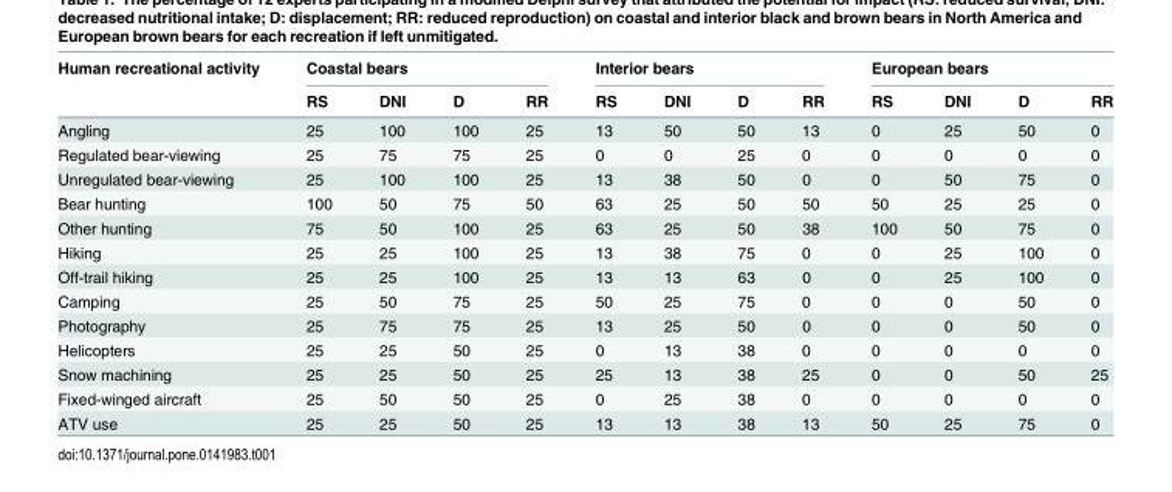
<table><thead><tr><td rowspan="2">Human recreational activity</td><td colspan="4">Coastal bears</td><td colspan="4">Interior bears</td><td colspan="4">European bears</td></tr><tr><td>RS</td><td>DNI</td><td>D</td><td>RR</td><td>RS</td><td>DNI</td><td>D</td><td>RR</td><td>RS</td><td>DNI</td><td>D</td><td>RR</td></tr></thead><tbody><tr><td>Angling</td><td>25</td><td>100</td><td>100</td><td>25</td><td>13</td><td>50</td><td>50</td><td>13</td><td>0</td><td>25</td><td>50</td><td>0</td></tr><tr><td>Regulated bear-viewing</td><td>25</td><td>75</td><td>75</td><td>25</td><td>0</td><td>0</td><td>25</td><td>0</td><td>0</td><td>0</td><td>0</td><td>0</td></tr><tr><td>Unregulated bear-viewing</td><td>25</td><td>100</td><td>100</td><td>25</td><td>13</td><td>38</td><td>50</td><td>0</td><td>0</td><td>50</td><td>75</td><td>0</td></tr><tr><td>Bear hunting</td><td>100</td><td>50</td><td>75</td><td>50</td><td>63</td><td>25</td><td>50</td><td>50</td><td>50</td><td>25</td><td>25</td><td>0</td></tr><tr><td>Other hunting</td><td>75</td><td>50</td><td>100</td><td>25</td><td>63</td><td>25</td><td>50</td><td>38</td><td>100</td><td>50</td><td>75</td><td>0</td></tr><tr><td>Hiking</td><td>25</td><td>25</td><td>100</td><td>25</td><td>13</td><td>38</td><td>75</td><td>0</td><td>0</td><td>25</td><td>100</td><td>0</td></tr><tr><td>Off-trail hiking</td><td>25</td><td>25</td><td>100</td><td>25</td><td>13</td><td>13</td><td>63</td><td>0</td><td>0</td><td>25</td><td>100</td><td>0</td></tr><tr><td>Camping</td><td>25</td><td>50</td><td>75</td><td>25</td><td>50</td><td>25</td><td>75</td><td>0</td><td>0</td><td>0</td><td>50</td><td>0</td></tr><tr><td>Photography</td><td>25</td><td>75</td><td>75</td><td>25</td><td>13</td><td>25</td><td>50</td><td>0</td><td>0</td><td>0</td><td>50</td><td>0</td></tr><tr><td>Helicopters</td><td>25</td><td>25</td><td>50</td><td>25</td><td>0</td><td>13</td><td>38</td><td>0</td><td>0</td><td>0</td><td>0</td><td>0</td></tr><tr><td>Snow machining</td><td>25</td><td>25</td><td>50</td><td>25</td><td>25</td><td>13</td><td>38</td><td>25</td><td>0</td><td>0</td><td>50</td><td>25</td></tr><tr><td>Fixed-winged aircraft</td><td>25</td><td>50</td><td>50</td><td>25</td><td>0</td><td>25</td><td>38</td><td>0</td><td>0</td><td>0</td><td>0</td><td>0</td></tr><tr><td>ATV use</td><td>25</td><td>25</td><td>50</td><td>25</td><td>13</td><td>13</td><td>38</td><td>13</td><td>50</td><td>25</td><td>75</td><td>0</td></tr></tbody></table>